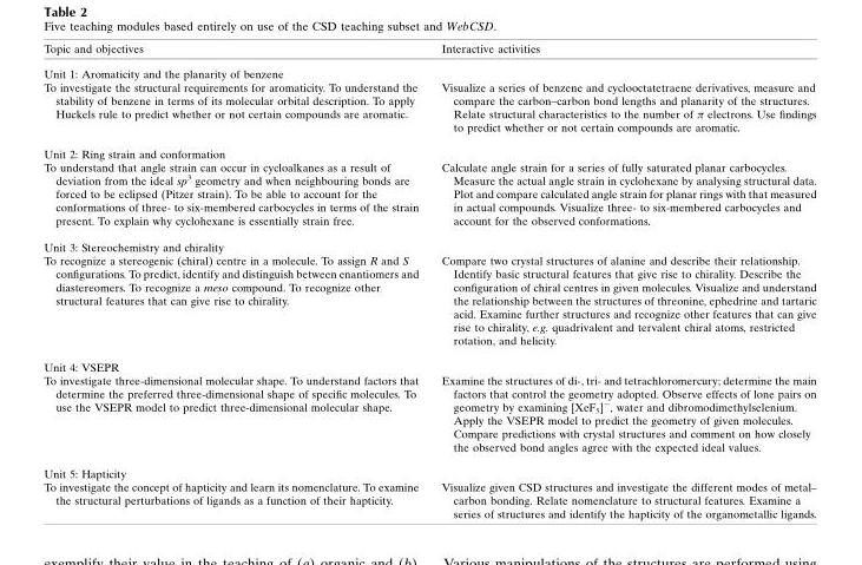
<table><thead><tr><td>Topic and objectives</td><td>Interactive activities</td></tr></thead><tbody><tr><td colspan="2">Unit 1: Aromaticity and the planarity of benzene</td></tr><tr><td>To investigate the structural requirements for aromaticity. To understand the stability of benzene in terms of its molecular orbital description. To apply Huckels rule to predict whether or not certain compounds are aromatic.</td><td>Visualize a series of benzene and cyclooctatetraene derivatives, measure and compare the carbon–carbon bond lengths and planarity of the structures. Relate structural characteristics to the number of π electrons. Use findings to predict whether or not certain compounds are aromatic.</td></tr><tr><td colspan="2">Unit 2: Ring strain and conformation</td></tr><tr><td>To understand that angle strain can occur in cycloalkanes as a result of deviation from the ideal sp<sup>3</sup> geometry and when neighbouring bonds are forced to be eclipsed (Pitzer strain). To be able to account for the conformations of three- to six-membered carbocycles in terms of the strain present. To explain why cyclohexane is essentially strain free.</td><td>Calculate angle strain for a series of fully saturated planar carbocycles. Measure the actual angle strain in cyclohexane by analysing structural data. Plot and compare calculated angle strain for planar rings with that measured in actual compounds. Visualize three- to six-membered carbocycles and account for the observed conformations.</td></tr><tr><td colspan="2">Unit 3: Stereochemistry and chirality</td></tr><tr><td>To recognize a stereogenic (chiral) centre in a molecule. To assign R and S configurations. To predict, identify and distinguish between enantiomers and diastereomers. To recognize a meso compound. To recognize other structural features that can give rise to chirality.</td><td>Compare two crystal structures of alanine and describe their relationship. Identify basic structural features that give rise to chirality. Describe the configuration of chiral centres in given molecules. Visualize and understand the relationship between the structures of threonine, ephedrine and tartaric acid. Examine further structures and recognize other features that can give rise to chirality, e.g. quadrivalent and tervalent chiral atoms, restricted rotation, and helicity.</td></tr><tr><td colspan="2">Unit 4: VSEPR</td></tr><tr><td>To investigate three-dimensional molecular shape. To understand factors that determine the preferred three-dimensional shape of specific molecules. To use the VSEPR model to predict three-dimensional molecular shape.</td><td>Examine the structures of di-, tri- and tetrachloromercury; determine the main factors that control the geometry adopted. Observe effects of lone pairs on geometry by examining [XeF<sub>5</sub>]<sup>−</sup>, water and dibromodimethylselenium. Apply the VSEPR model to predict the geometry of given molecules. Compare predictions with crystal structures and comment on how closely the observed bond angles agree with the expected ideal values.</td></tr><tr><td colspan="2">Unit 5: Hapticity</td></tr><tr><td>To investigate the concept of hapticity and learn its nomenclature. To examine the structural perturbations of ligands as a function of their hapticity.</td><td>Visualize given CSD structures and investigate the different modes of metal– carbon bonding. Relate nomenclature to structural features. Examine a series of structures and identify the hapticity of the organometallic ligands.</td></tr></tbody></table>